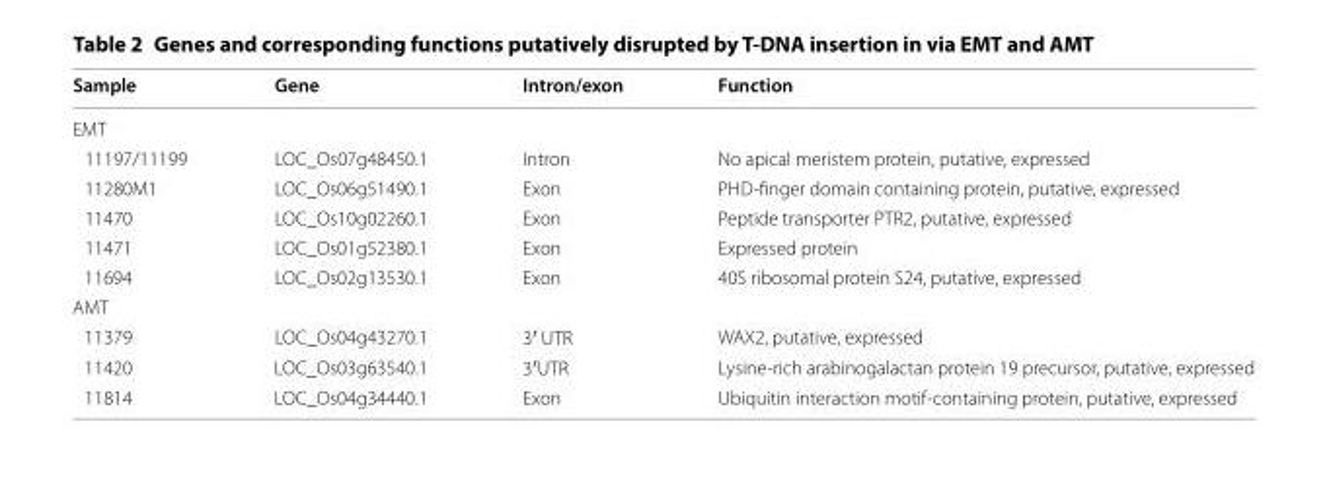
<table><thead><tr><td>Sample</td><td>Gene</td><td>Intron/exon</td><td>Function</td></tr></thead><tbody><tr><td colspan="4">EMT</td></tr><tr><td>11197/11199</td><td>LOC_Os07g48450.1</td><td>Intron</td><td>No apical meristem protein, putative, expressed</td></tr><tr><td>11280M1</td><td>LOC_Os06g51490.1</td><td>Exon</td><td>PHD‑finger domain containing protein, putative, expressed</td></tr><tr><td>11470</td><td>LOC_Os10g02260.1</td><td>Exon</td><td>Peptide transporter PTR2, putative, expressed</td></tr><tr><td>11471</td><td>LOC_Os01g52380.1</td><td>Exon</td><td>Expressed protein</td></tr><tr><td>11694</td><td>LOC_Os02g13530.1</td><td>Exon</td><td>40S ribosomal protein S24, putative, expressed</td></tr><tr><td colspan="4">AMT</td></tr><tr><td>11379</td><td>LOC_Os04g43270.1</td><td>3′ UTR</td><td>WAX2, putative, expressed</td></tr><tr><td>11420</td><td>LOC_Os03g63540.1</td><td>3′UTR</td><td>Lysine‑rich arabinogalactan protein 19 precursor, putative, expressed</td></tr><tr><td>11814</td><td>LOC_Os04g34440.1</td><td>Exon</td><td>Ubiquitin interaction motif‑containing protein, putative, expressed</td></tr></tbody></table>